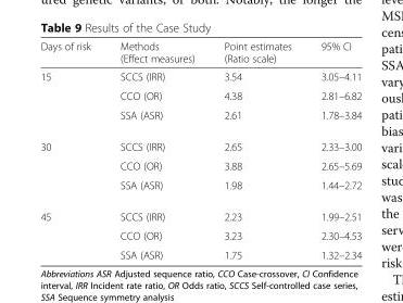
<table><thead><tr><td>Days of risk</td><td>Methods (Effect measures)</td><td>Point estimates (Ratio scale)</td><td>95% CI</td></tr></thead><tbody><tr><td rowspan="3">15</td><td>SCCS (IRR)</td><td>3.54</td><td>3.05–4.11</td></tr><tr><td>CCO (OR)</td><td>4.38</td><td>2.81–6.82</td></tr><tr><td>SSA (ASR)</td><td>2.61</td><td>1.78–3.84</td></tr><tr><td rowspan="3">30</td><td>SCCS (IRR)</td><td>2.65</td><td>2.33–3.00</td></tr><tr><td>CCO (OR)</td><td>3.88</td><td>2.65–5.69</td></tr><tr><td>SSA (ASR)</td><td>1.98</td><td>1.44–2.72</td></tr><tr><td rowspan="3">45</td><td>SCCS (IRR)</td><td>2.23</td><td>1.99–2.51</td></tr><tr><td>CCO (OR)</td><td>3.23</td><td>2.30–4.53</td></tr><tr><td>SSA (ASR)</td><td>1.75</td><td>1.32–2.34</td></tr></tbody></table>